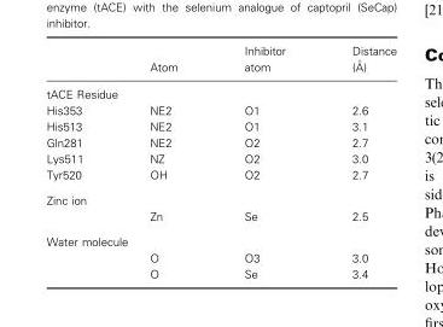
<table><thead><tr><td></td><td>Atom</td><td>Inhibitor atom</td><td>Distance (A˚ )</td></tr></thead><tbody><tr><td colspan="4">tACE Residue</td></tr><tr><td>His353</td><td>NE2</td><td>O1</td><td>2.6</td></tr><tr><td>His513</td><td>NE2</td><td>O1</td><td>3.1</td></tr><tr><td>Gln281</td><td>NE2</td><td>O2</td><td>2.7</td></tr><tr><td>Lys511</td><td>NZ</td><td>O2</td><td>3.0</td></tr><tr><td>Tyr520</td><td>OH</td><td>O2</td><td>2.7</td></tr><tr><td colspan="4">Zinc ion</td></tr><tr><td></td><td>Zn</td><td>Se</td><td>2.5</td></tr><tr><td colspan="4">Water molecule</td></tr><tr><td></td><td>O</td><td>O3</td><td>3.0</td></tr><tr><td></td><td>O</td><td>Se</td><td>3.4</td></tr></tbody></table>